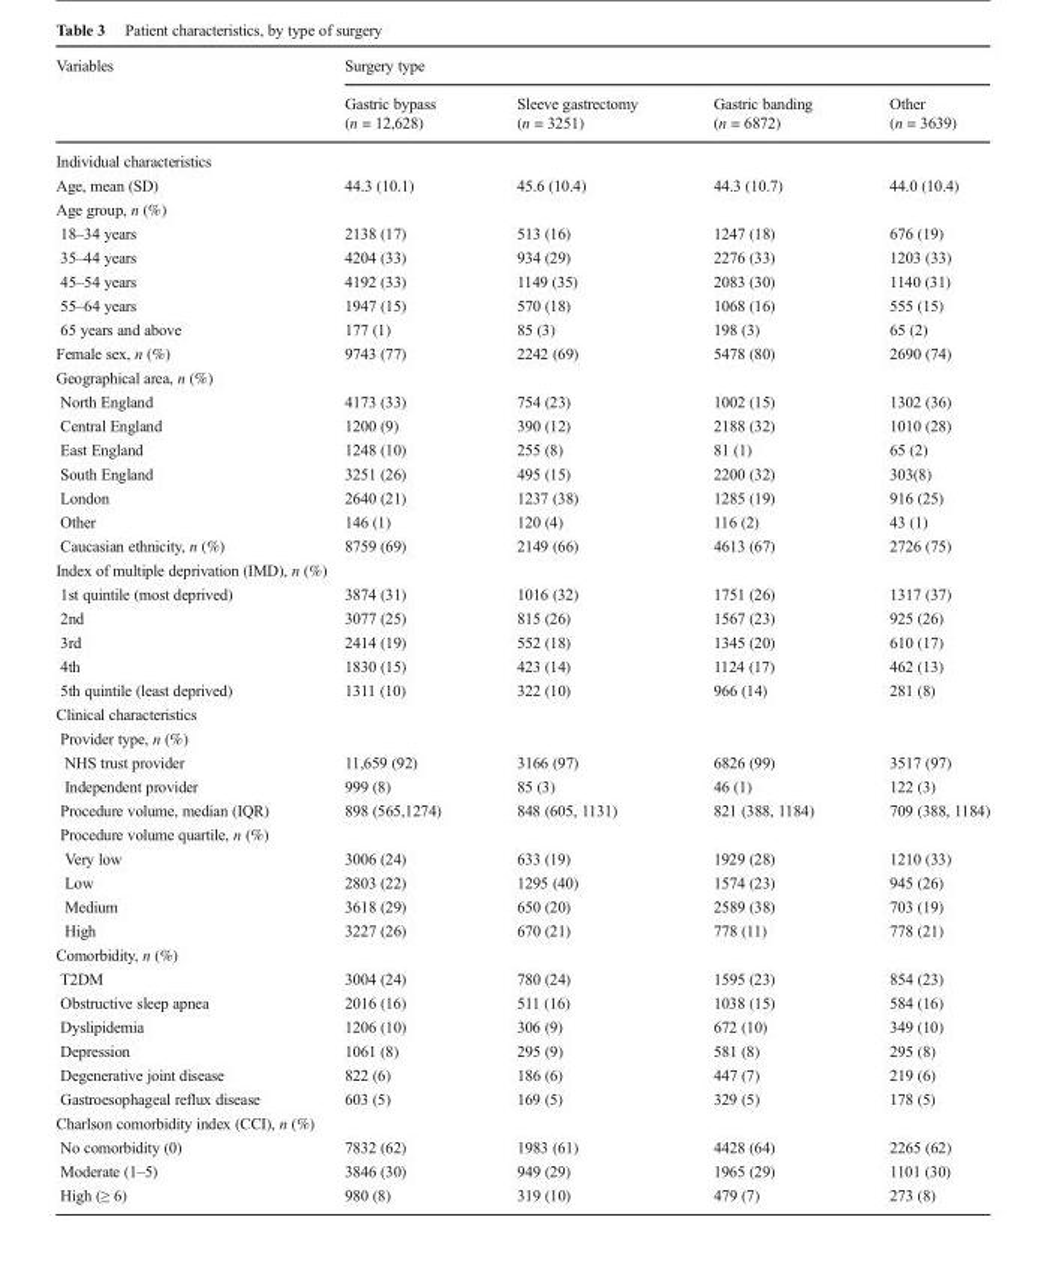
<table><thead><tr><td rowspan="2">Variables</td><td colspan="4">Surgery type</td></tr><tr><td>Gastric bypass (n = 12,628)</td><td>Sleeve gastrectomy (n = 3251)</td><td>Gastric banding (n = 6872)</td><td>Other (n = 3639)</td></tr></thead><tbody><tr><td colspan="5">Individual characteristics</td></tr><tr><td>Age, mean (SD)</td><td>44.3 (10.1)</td><td>45.6 (10.4)</td><td>44.3 (10.7)</td><td>44.0 (10.4)</td></tr><tr><td colspan="5">Age group, n (%)</td></tr><tr><td>18–34 years</td><td>2138 (17)</td><td>513 (16)</td><td>1247 (18)</td><td>676 (19)</td></tr><tr><td>35–44 years</td><td>4204 (33)</td><td>934 (29)</td><td>2276 (33)</td><td>1203 (33)</td></tr><tr><td>45–54 years</td><td>4192 (33)</td><td>1149 (35)</td><td>2083 (30)</td><td>1140 (31)</td></tr><tr><td>55–64 years</td><td>1947 (15)</td><td>570 (18)</td><td>1068 (16)</td><td>555 (15)</td></tr><tr><td>65 years and above</td><td>177 (1)</td><td>85 (3)</td><td>198 (3)</td><td>65 (2)</td></tr><tr><td>Female sex, n (%)</td><td>9743 (77)</td><td>2242 (69)</td><td>5478 (80)</td><td>2690 (74)</td></tr><tr><td colspan="5">Geographical area, n (%)</td></tr><tr><td>North England</td><td>4173 (33)</td><td>754 (23)</td><td>1002 (15)</td><td>1302 (36)</td></tr><tr><td>Central England</td><td>1200 (9)</td><td>390 (12)</td><td>2188 (32)</td><td>1010 (28)</td></tr><tr><td>East England</td><td>1248 (10)</td><td>255 (8)</td><td>81 (1)</td><td>65 (2)</td></tr><tr><td>South England</td><td>3251 (26)</td><td>495 (15)</td><td>2200 (32)</td><td>303(8)</td></tr><tr><td>London</td><td>2640 (21)</td><td>1237 (38)</td><td>1285 (19)</td><td>916 (25)</td></tr><tr><td>Other</td><td>146 (1)</td><td>120 (4)</td><td>116 (2)</td><td>43 (1)</td></tr><tr><td>Caucasian ethnicity, n (%)</td><td>8759 (69)</td><td>2149 (66)</td><td>4613 (67)</td><td>2726 (75)</td></tr><tr><td colspan="5">Index of multiple deprivation (IMD), n (%)</td></tr><tr><td>1st quintile (most deprived)</td><td>3874 (31)</td><td>1016 (32)</td><td>1751 (26)</td><td>1317 (37)</td></tr><tr><td>2nd</td><td>3077 (25)</td><td>815 (26)</td><td>1567 (23)</td><td>925 (26)</td></tr><tr><td>3rd</td><td>2414 (19)</td><td>552 (18)</td><td>1345 (20)</td><td>610 (17)</td></tr><tr><td>4th</td><td>1830 (15)</td><td>423 (14)</td><td>1124 (17)</td><td>462 (13)</td></tr><tr><td>5th quintile (least deprived)</td><td>1311 (10)</td><td>322 (10)</td><td>966 (14)</td><td>281 (8)</td></tr><tr><td colspan="5">Clinical characteristics</td></tr><tr><td colspan="5">Provider type, n (%)</td></tr><tr><td>NHS trust provider</td><td>11,659 (92)</td><td>3166 (97)</td><td>6826 (99)</td><td>3517 (97)</td></tr><tr><td>Independent provider</td><td>999 (8)</td><td>85 (3)</td><td>46 (1)</td><td>122 (3)</td></tr><tr><td>Procedure volume, median (IQR)</td><td>898 (565,1274)</td><td>848 (605, 1131)</td><td>821 (388, 1184)</td><td>709 (388, 1184)</td></tr><tr><td colspan="5">Procedure volume quartile, n (%)</td></tr><tr><td>Very low</td><td>3006 (24)</td><td>633 (19)</td><td>1929 (28)</td><td>1210 (33)</td></tr><tr><td>Low</td><td>2803 (22)</td><td>1295 (40)</td><td>1574 (23)</td><td>945 (26)</td></tr><tr><td>Medium</td><td>3618 (29)</td><td>650 (20)</td><td>2589 (38)</td><td>703 (19)</td></tr><tr><td>High</td><td>3227 (26)</td><td>670 (21)</td><td>778 (11)</td><td>778 (21)</td></tr><tr><td colspan="5">Comorbidity, n (%)</td></tr><tr><td>T2DM</td><td>3004 (24)</td><td>780 (24)</td><td>1595 (23)</td><td>854 (23)</td></tr><tr><td>Obstructive sleep apnea</td><td>2016 (16)</td><td>511 (16)</td><td>1038 (15)</td><td>584 (16)</td></tr><tr><td>Dyslipidemia</td><td>1206 (10)</td><td>306 (9)</td><td>672 (10)</td><td>349 (10)</td></tr><tr><td>Depression</td><td>1061 (8)</td><td>295 (9)</td><td>581 (8)</td><td>295 (8)</td></tr><tr><td>Degenerative joint disease</td><td>822 (6)</td><td>186 (6)</td><td>447 (7)</td><td>219 (6)</td></tr><tr><td>Gastroesophageal reflux disease</td><td>603 (5)</td><td>169 (5)</td><td>329 (5)</td><td>178 (5)</td></tr><tr><td colspan="5">Charlson comorbidity index (CCI), n (%)</td></tr><tr><td>No comorbidity (0)</td><td>7832 (62)</td><td>1983 (61)</td><td>4428 (64)</td><td>2265 (62)</td></tr><tr><td>Moderate (1–5)</td><td>3846 (30)</td><td>949 (29)</td><td>1965 (29)</td><td>1101 (30)</td></tr><tr><td>High (≥ 6)</td><td>980 (8)</td><td>319 (10)</td><td>479 (7)</td><td>273 (8)</td></tr></tbody></table>